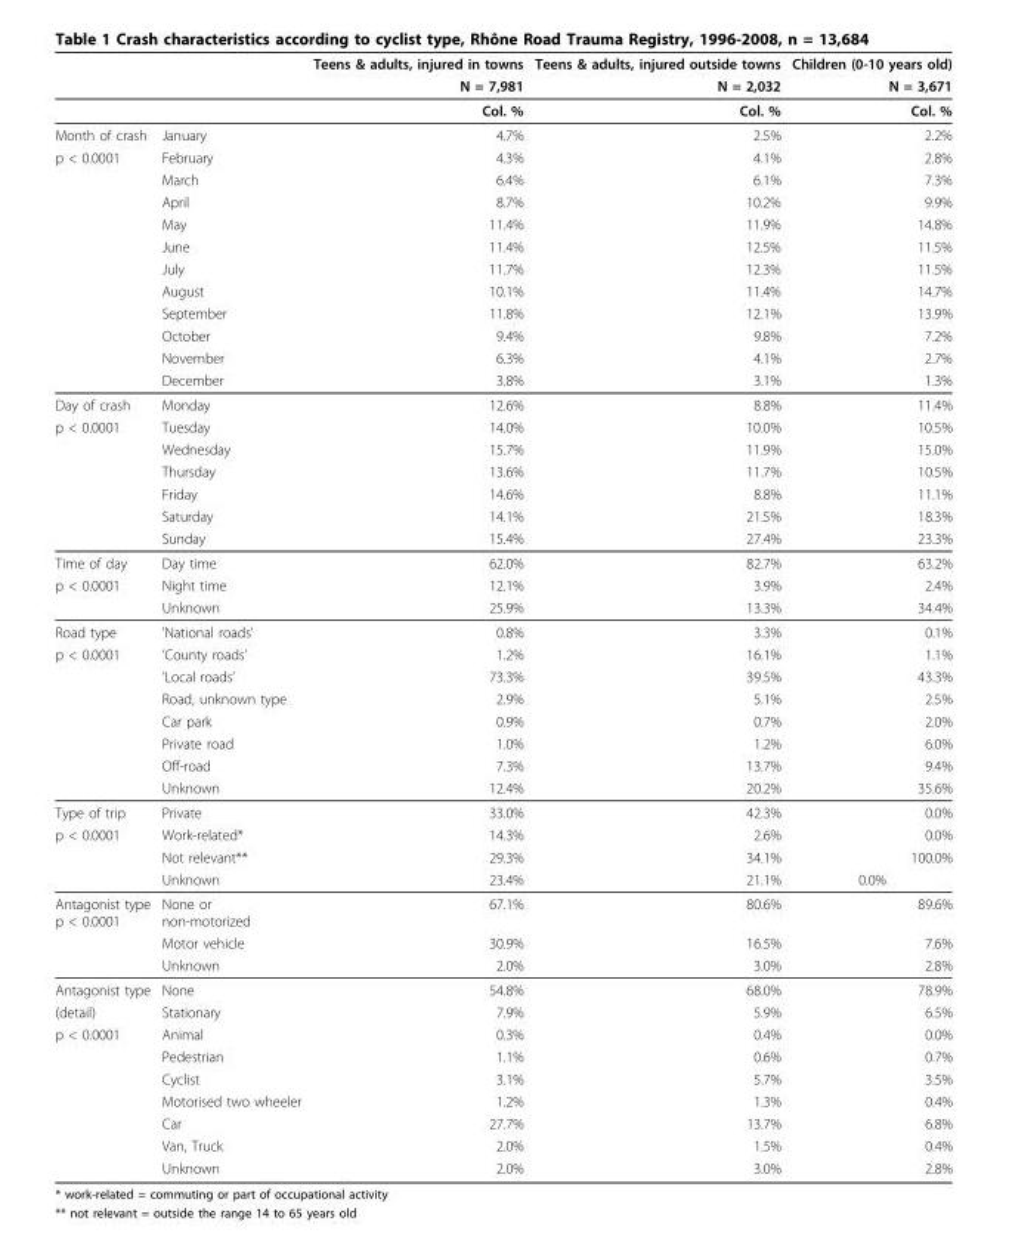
<table><thead><tr><td rowspan="2"></td><td rowspan="2"></td><td rowspan="2">Teens &amp; adults, injured in towns N = 7,981</td><td rowspan="2">Teens &amp; adults, injured outside towns N = 2,032</td><td rowspan="2">Children (0-10 years old) N = 3,671</td></tr><tr></tr></thead><tbody><tr><td></td><td></td><td>Col. %</td><td>Col. %</td><td>Col. %</td></tr><tr><td>Month of crash</td><td>January</td><td>4.7%</td><td>2.5%</td><td>2.2%</td></tr><tr><td rowspan="11">p &lt; 0.0001</td><td>February</td><td>4.3%</td><td>4.1%</td><td>2.8%</td></tr><tr><td>March</td><td>6.4%</td><td>6.1%</td><td>7.3%</td></tr><tr><td>April</td><td>8.7%</td><td>10.2%</td><td>9.9%</td></tr><tr><td>May</td><td>11.4%</td><td>11.9%</td><td>14.8%</td></tr><tr><td>June</td><td>11.4%</td><td>12.5%</td><td>11.5%</td></tr><tr><td>July</td><td>11.7%</td><td>12.3%</td><td>11.5%</td></tr><tr><td>August</td><td>10.1%</td><td>11.4%</td><td>14.7%</td></tr><tr><td>September</td><td>11.8%</td><td>12.1%</td><td>13.9%</td></tr><tr><td>October</td><td>9.4%</td><td>9.8%</td><td>7.2%</td></tr><tr><td>November</td><td>6.3%</td><td>4.1%</td><td>2.7%</td></tr><tr><td>December</td><td>3.8%</td><td>3.1%</td><td>1.3%</td></tr><tr><td>Day of crash</td><td>Monday</td><td>12.6%</td><td>8.8%</td><td>11.4%</td></tr><tr><td rowspan="6">p &lt; 0.0001</td><td>Tuesday</td><td>14.0%</td><td>10.0%</td><td>10.5%</td></tr><tr><td>Wednesday</td><td>15.7%</td><td>11.9%</td><td>15.0%</td></tr><tr><td>Thursday</td><td>13.6%</td><td>11.7%</td><td>10.5%</td></tr><tr><td>Friday</td><td>14.6%</td><td>8.8%</td><td>11.1%</td></tr><tr><td>Saturday</td><td>14.1%</td><td>21.5%</td><td>18.3%</td></tr><tr><td>Sunday</td><td>15.4%</td><td>27.4%</td><td>23.3%</td></tr><tr><td>Time of day</td><td>Day time</td><td>62.0%</td><td>82.7%</td><td>63.2%</td></tr><tr><td rowspan="2">p &lt; 0.0001</td><td>Night time</td><td>12.1%</td><td>3.9%</td><td>2.4%</td></tr><tr><td>Unknown</td><td>25.9%</td><td>13.3%</td><td>34.4%</td></tr><tr><td>Road type</td><td>’National roads’</td><td>0.8%</td><td>3.3%</td><td>0.1%</td></tr><tr><td rowspan="7">p &lt; 0.0001</td><td>’County roads’</td><td>1.2%</td><td>16.1%</td><td>1.1%</td></tr><tr><td>’Local roads’</td><td>73.3%</td><td>39.5%</td><td>43.3%</td></tr><tr><td>Road, unknown type</td><td>2.9%</td><td>5.1%</td><td>2.5%</td></tr><tr><td>Car park</td><td>0.9%</td><td>0.7%</td><td>2.0%</td></tr><tr><td>Private road</td><td>1.0%</td><td>1.2%</td><td>6.0%</td></tr><tr><td>Off-road</td><td>7.3%</td><td>13.7%</td><td>9.4%</td></tr><tr><td>Unknown</td><td>12.4%</td><td>20.2%</td><td>35.6%</td></tr><tr><td>Type of trip</td><td>Private</td><td>33.0%</td><td>42.3%</td><td>0.0%</td></tr><tr><td rowspan="3">p &lt; 0.0001</td><td>Work-related*</td><td>14.3%</td><td>2.6%</td><td>0.0%</td></tr><tr><td>Not relevant**</td><td>29.3%</td><td>34.1%</td><td>100.0%</td></tr><tr><td>Unknown</td><td>23.4%</td><td>21.1%</td><td>0.0%</td></tr><tr><td rowspan="3">Antagonist type p &lt; 0.0001</td><td>None or non-motorized</td><td>67.1%</td><td>80.6%</td><td>89.6%</td></tr><tr><td>Motor vehicle</td><td>30.9%</td><td>16.5%</td><td>7.6%</td></tr><tr><td>Unknown</td><td>2.0%</td><td>3.0%</td><td>2.8%</td></tr><tr><td>Antagonist type</td><td>None</td><td>54.8%</td><td>68.0%</td><td>78.9%</td></tr><tr><td>(detail)</td><td>Stationary</td><td>7.9%</td><td>5.9%</td><td>6.5%</td></tr><tr><td rowspan="7">p &lt; 0.0001</td><td>Animal</td><td>0.3%</td><td>0.4%</td><td>0.0%</td></tr><tr><td>Pedestrian</td><td>1.1%</td><td>0.6%</td><td>0.7%</td></tr><tr><td>Cyclist</td><td>3.1%</td><td>5.7%</td><td>3.5%</td></tr><tr><td>Motorised two wheeler</td><td>1.2%</td><td>1.3%</td><td>0.4%</td></tr><tr><td>Car</td><td>27.7%</td><td>13.7%</td><td>6.8%</td></tr><tr><td>Van, Truck</td><td>2.0%</td><td>1.5%</td><td>0.4%</td></tr><tr><td>Unknown</td><td>2.0%</td><td>3.0%</td><td>2.8%</td></tr></tbody></table>